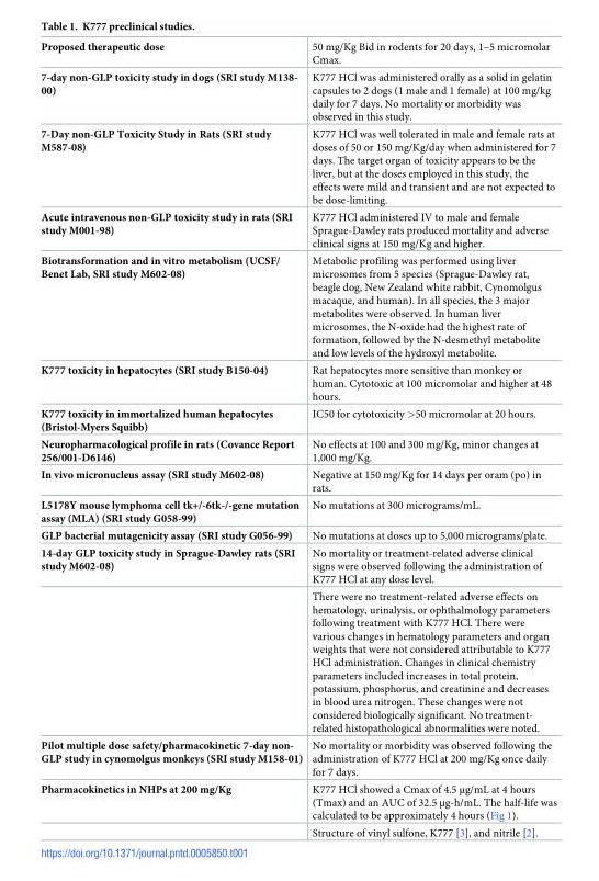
<table><tbody><tr><td>Proposed therapeutic dose</td><td>50 mg/Kg Bid in rodents for 20 days, 1–5 micromolar Cmax.</td></tr><tr><td>7-day non-GLP toxicity study in dogs (SRI study M138- 00)</td><td>K777 HCl was administered orally as a solid in gelatin capsules to 2 dogs (1 male and 1 female) at 100 mg/kg daily for 7 days. No mortality or morbidity was observed in this study.</td></tr><tr><td>7-Day non-GLP Toxicity Study in Rats (SRI study M587-08)</td><td>K777 HCl was well tolerated in male and female rats at doses of 50 or 150 mg/Kg/day when administered for 7 days. The target organ of toxicity appears to be the liver, but at the doses employed in this study, the effects were mild and transient and are not expected to be dose-limiting.</td></tr><tr><td>Acute intravenous non-GLP toxicity study in rats (SRI study M001-98)</td><td>K777 HCl administered IV to male and female Sprague-Dawley rats produced mortality and adverse clinical signs at 150 mg/Kg and higher.</td></tr><tr><td>Biotransformation and in vitro metabolism (UCSF/ Benet Lab, SRI study M602-08)</td><td>Metabolic profiling was performed using liver microsomes from 5 species (Sprague-Dawley rat, beagle dog, New Zealand white rabbit, Cynomolgus macaque, and human). In all species, the 3 major metabolites were observed. In human liver microsomes, the N-oxide had the highest rate of formation, followed by the N-desmethyl metabolite and low levels of the hydroxyl metabolite.</td></tr><tr><td>K777 toxicity in hepatocytes (SRI study B150-04)</td><td>Rat hepatocytes more sensitive than monkey or human. Cytotoxic at 100 micromolar and higher at 48 hours.</td></tr><tr><td>K777 toxicity in immortalized human hepatocytes (Bristol-Myers Squibb)</td><td>IC50 for cytotoxicity &gt;50 micromolar at 20 hours.</td></tr><tr><td>Neuropharmacological profile in rats (Covance Report 256/001-D6146)</td><td>No effects at 100 and 300 mg/Kg, minor changes at 1,000 mg/Kg.</td></tr><tr><td>In vivo micronucleus assay (SRI study M602-08)</td><td>Negative at 150 mg/Kg for 14 days per oram (po) in rats.</td></tr><tr><td>L5178Y mouse lymphoma cell tk+/-6tk-/-gene mutation assay (MLA) (SRI study G058-99)</td><td>No mutations at 300 micrograms/mL.</td></tr><tr><td>GLP bacterial mutagenicity assay (SRI study G056-99)</td><td>No mutations at doses up to 5,000 micrograms/plate.</td></tr><tr><td rowspan="2">14-day GLP toxicity study in Sprague-Dawley rats (SRI study M602-08)</td><td>No mortality or treatment-related adverse clinical signs were observed following the administration of K777 HCl at any dose level.</td></tr><tr><td>There were no treatment-related adverse effects on hematology, urinalysis, or ophthalmology parameters following treatment with K777 HCl. There were various changes in hematology parameters and organ weights that were not considered attributable to K777 HCl administration. Changes in clinical chemistry parameters included increases in total protein, potassium, phosphorus, and creatinine and decreases in blood urea nitrogen. These changes were not considered biologically significant. No treatment- related histopathological abnormalities were noted.</td></tr><tr><td>Pilot multiple dose safety/pharmacokinetic 7-day non- GLP study in cynomolgus monkeys (SRI study M158-01)</td><td>No mortality or morbidity was observed following the administration of K777 HCl at 200 mg/Kg once daily for 7 days.</td></tr><tr><td rowspan="2">Pharmacokinetics in NHPs at 200 mg/Kg</td><td>K777 HCl showed a Cmax of 4.5 μg/mL at 4 hours (Tmax) and an AUC of 32.5 μg-h/mL. The half-life was calculated to be approximately 4 hours (Fig 1).</td></tr><tr><td>Structure of vinyl sulfone, K777 [3], and nitrile [2].</td></tr></tbody></table>